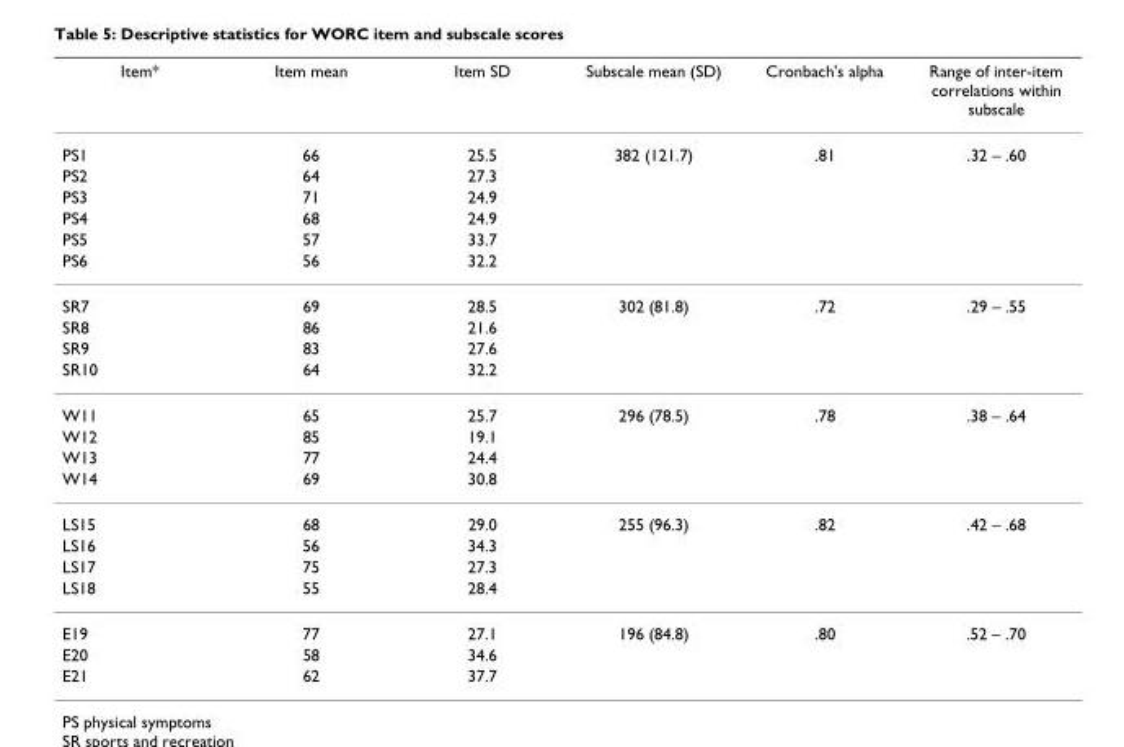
<table><thead><tr><td>Item*</td><td>Item mean</td><td>Item SD</td><td>Subscale mean (SD)</td><td>Cronbach&#x27;s alpha</td><td>Range of inter-item correlations within subscale</td></tr></thead><tbody><tr><td>PS1</td><td>66</td><td>25.5</td><td>382 (121.7)</td><td>.81</td><td>.32 – .60</td></tr><tr><td>PS2</td><td>64</td><td>27.3</td><td></td><td></td><td></td></tr><tr><td>PS3</td><td>71</td><td>24.9</td><td></td><td></td><td></td></tr><tr><td>PS4</td><td>68</td><td>24.9</td><td></td><td></td><td></td></tr><tr><td>PS5</td><td>57</td><td>33.7</td><td></td><td></td><td></td></tr><tr><td>PS6</td><td>56</td><td>32.2</td><td></td><td></td><td></td></tr><tr><td>SR7</td><td>69</td><td>28.5</td><td>302 (81.8)</td><td>.72</td><td>.29 – .55</td></tr><tr><td>SR8</td><td>86</td><td>21.6</td><td></td><td></td><td></td></tr><tr><td>SR9</td><td>83</td><td>27.6</td><td></td><td></td><td></td></tr><tr><td>SR10</td><td>64</td><td>32.2</td><td></td><td></td><td></td></tr><tr><td>W11</td><td>65</td><td>25.7</td><td>296 (78.5)</td><td>.78</td><td>.38 – .64</td></tr><tr><td>W12</td><td>85</td><td>19.1</td><td></td><td></td><td></td></tr><tr><td>W13</td><td>77</td><td>24.4</td><td></td><td></td><td></td></tr><tr><td>W14</td><td>69</td><td>30.8</td><td></td><td></td><td></td></tr><tr><td>LS15</td><td>68</td><td>29.0</td><td>255 (96.3)</td><td>.82</td><td>.42 – .68</td></tr><tr><td>LS16</td><td>56</td><td>34.3</td><td></td><td></td><td></td></tr><tr><td>LS17</td><td>75</td><td>27.3</td><td></td><td></td><td></td></tr><tr><td>LS18</td><td>55</td><td>28.4</td><td></td><td></td><td></td></tr><tr><td>E19</td><td>77</td><td>27.1</td><td>196 (84.8)</td><td>.80</td><td>.52 – .70</td></tr><tr><td>E20</td><td>58</td><td>34.6</td><td></td><td></td><td></td></tr><tr><td>E21</td><td>62</td><td>37.7</td><td></td><td></td><td></td></tr></tbody></table>